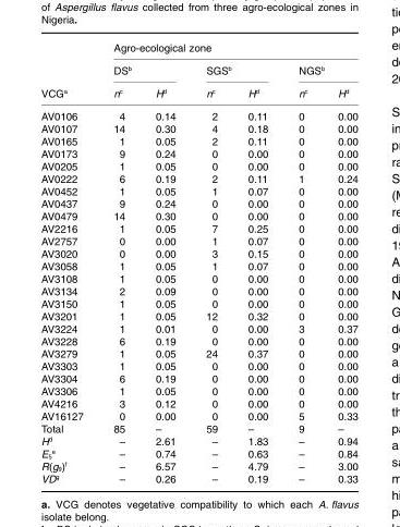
<table><thead><tr><td rowspan="3">VCG<sup>a</sup></td><td colspan="6">Agro-ecological zone</td></tr><tr><td colspan="2">DS<sup>b</sup></td><td colspan="2">SGS<sup>b</sup></td><td colspan="2">NGS<sup>b</sup></td></tr><tr><td>nc</td><td>Hd</td><td>nc</td><td>Hd</td><td>nc</td><td>Hd</td></tr></thead><tbody><tr><td>AV0106</td><td>4</td><td>0.14</td><td>2</td><td>0.11</td><td>0</td><td>0.00</td></tr><tr><td>AV0107</td><td>14</td><td>0.30</td><td>4</td><td>0.18</td><td>0</td><td>0.00</td></tr><tr><td>AV0165</td><td>1</td><td>0.05</td><td>2</td><td>0.11</td><td>0</td><td>0.00</td></tr><tr><td>AV0173</td><td>9</td><td>0.24</td><td>0</td><td>0.00</td><td>0</td><td>0.00</td></tr><tr><td>AV0205</td><td>1</td><td>0.05</td><td>0</td><td>0.00</td><td>0</td><td>0.00</td></tr><tr><td>AV0222</td><td>6</td><td>0.19</td><td>2</td><td>0.11</td><td>1</td><td>0.24</td></tr><tr><td>AV0452</td><td>1</td><td>0.05</td><td>1</td><td>0.07</td><td>0</td><td>0.00</td></tr><tr><td>AV0437</td><td>9</td><td>0.24</td><td>0</td><td>0.00</td><td>0</td><td>0.00</td></tr><tr><td>AV0479</td><td>14</td><td>0.30</td><td>0</td><td>0.00</td><td>0</td><td>0.00</td></tr><tr><td>AV2216</td><td>1</td><td>0.05</td><td>7</td><td>0.25</td><td>0</td><td>0.00</td></tr><tr><td>AV2757</td><td>0</td><td>0.00</td><td>1</td><td>0.07</td><td>0</td><td>0.00</td></tr><tr><td>AV3020</td><td>0</td><td>0.00</td><td>3</td><td>0.15</td><td>0</td><td>0.00</td></tr><tr><td>AV3058</td><td>1</td><td>0.05</td><td>1</td><td>0.07</td><td>0</td><td>0.00</td></tr><tr><td>AV3108</td><td>1</td><td>0.05</td><td>0</td><td>0.00</td><td>0</td><td>0.00</td></tr><tr><td>AV3134</td><td>2</td><td>0.09</td><td>0</td><td>0.00</td><td>0</td><td>0.00</td></tr><tr><td>AV3150</td><td>1</td><td>0.05</td><td>0</td><td>0.00</td><td>0</td><td>0.00</td></tr><tr><td>AV3201</td><td>1</td><td>0.05</td><td>12</td><td>0.32</td><td>0</td><td>0.00</td></tr><tr><td>AV3224</td><td>1</td><td>0.01</td><td>0</td><td>0.00</td><td>3</td><td>0.37</td></tr><tr><td>AV3228</td><td>6</td><td>0.19</td><td>0</td><td>0.00</td><td>0</td><td>0.00</td></tr><tr><td>AV3279</td><td>1</td><td>0.05</td><td>24</td><td>0.37</td><td>0</td><td>0.00</td></tr><tr><td>AV3303</td><td>1</td><td>0.05</td><td>0</td><td>0.00</td><td>0</td><td>0.00</td></tr><tr><td>AV3304</td><td>6</td><td>0.19</td><td>0</td><td>0.00</td><td>0</td><td>0.00</td></tr><tr><td>AV3306</td><td>1</td><td>0.05</td><td>0</td><td>0.00</td><td>0</td><td>0.00</td></tr><tr><td>AV4216</td><td>3</td><td>0.12</td><td>0</td><td>0.00</td><td>0</td><td>0.00</td></tr><tr><td>AV16127</td><td>0</td><td>0.00</td><td>0</td><td>0.00</td><td>5</td><td>0.33</td></tr><tr><td>Total</td><td>85</td><td>–</td><td>59</td><td>–</td><td>9</td><td>–</td></tr><tr><td>Hd</td><td>–</td><td>2.61</td><td>–</td><td>1.83</td><td>–</td><td>0.94</td></tr><tr><td>E<sub>5</sub>e</td><td>–</td><td>0.74</td><td>–</td><td>0.63</td><td>–</td><td>0.84</td></tr><tr><td>R(g<sub>9</sub>)<sup>f</sup></td><td>–</td><td>6.57</td><td>–</td><td>4.79</td><td>–</td><td>3.00</td></tr><tr><td>VDg</td><td>–</td><td>0.26</td><td>–</td><td>0.19</td><td>–</td><td>0.33</td></tr></tbody></table>